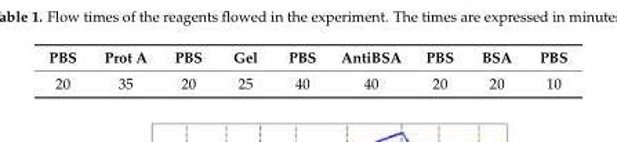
<table><thead><tr><td>PBS</td><td>Prot A</td><td>PBS</td><td>Gel</td><td>PBS</td><td>AntiBSA</td><td>PBS</td><td>BSA</td><td>PBS</td></tr></thead><tbody><tr><td>20</td><td>35</td><td>20</td><td>25</td><td>40</td><td>40</td><td>20</td><td>20</td><td>10</td></tr></tbody></table>